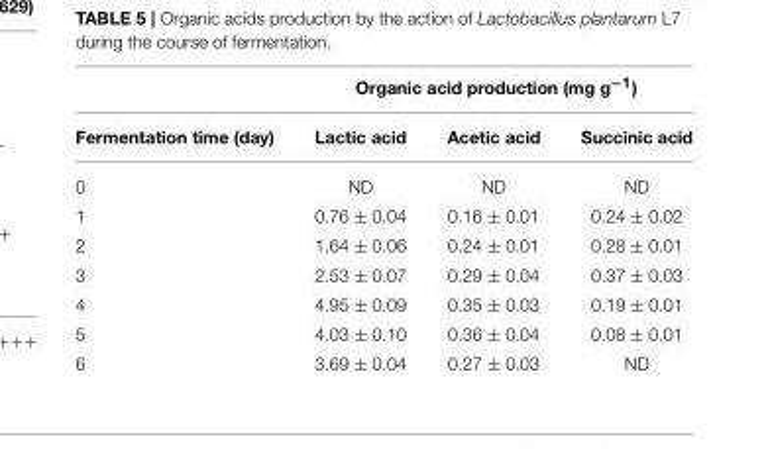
<table><thead><tr><td rowspan="2">Fermentation time (day)</td><td colspan="3">Organic acid production (mg g<sup>−1</sup>)</td></tr><tr><td>Lactic acid</td><td>Acetic acid</td><td>Succinic acid</td></tr></thead><tbody><tr><td>0</td><td>ND</td><td>ND</td><td>ND</td></tr><tr><td>1</td><td>0.76 ± 0.04</td><td>0.16 ± 0.01</td><td>0.24 ± 0.02</td></tr><tr><td>2</td><td>1.64 ± 0.06</td><td>0.24 ± 0.01</td><td>0.28 ± 0.01</td></tr><tr><td>3</td><td>2.53 ± 0.07</td><td>0.29 ± 0.04</td><td>0.37 ± 0.03</td></tr><tr><td>4</td><td>4.95 ± 0.09</td><td>0.35 ± 0.03</td><td>0.19 ± 0.01</td></tr><tr><td>5</td><td>4.03 ± 0.10</td><td>0.36 ± 0.04</td><td>0.08 ± 0.01</td></tr><tr><td>6</td><td>3.69 ± 0.04</td><td>0.27 ± 0.03</td><td>ND</td></tr></tbody></table>